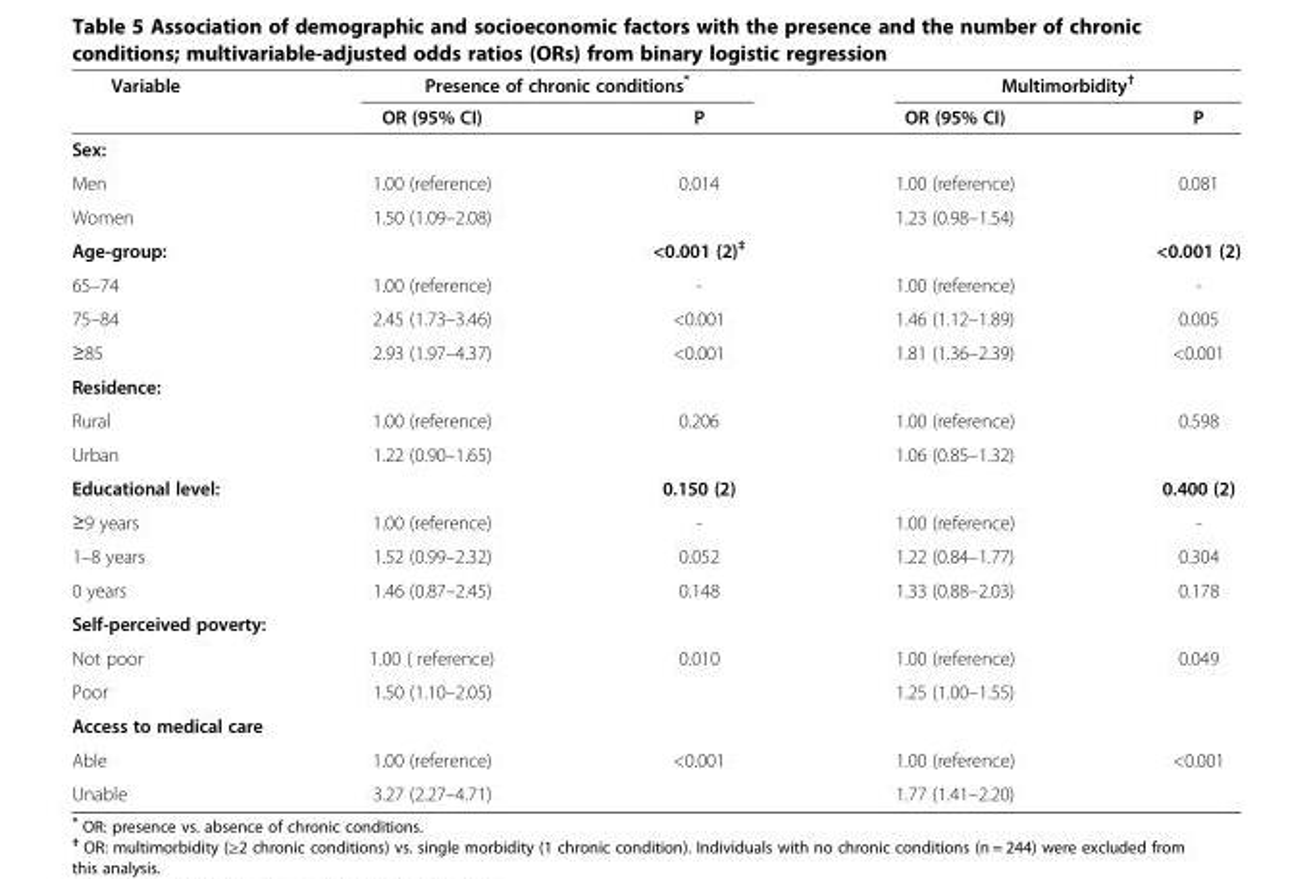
<table><thead><tr><td rowspan="2">Variable</td><td colspan="2">Presence of chronic conditions*</td><td colspan="2">Multimorbidity<sup>†</sup></td></tr><tr><td>OR (95% CI)</td><td>P</td><td>OR (95% CI)</td><td>P</td></tr></thead><tbody><tr><td colspan="5">Sex:</td></tr><tr><td>Men</td><td>1.00 (reference)</td><td>0.014</td><td>1.00 (reference)</td><td>0.081</td></tr><tr><td>Women</td><td>1.50 (1.09–2.08)</td><td></td><td>1.23 (0.98–1.54)</td><td></td></tr><tr><td>Age-group:</td><td></td><td>&lt;0.001 (2)<sup>‡</sup></td><td></td><td>&lt;0.001 (2)</td></tr><tr><td>65–74</td><td>1.00 (reference)</td><td>-</td><td>1.00 (reference)</td><td>-</td></tr><tr><td>75–84</td><td>2.45 (1.73–3.46)</td><td>&lt;0.001</td><td>1.46 (1.12–1.89)</td><td>0.005</td></tr><tr><td>≥85</td><td>2.93 (1.97–4.37)</td><td>&lt;0.001</td><td>1.81 (1.36–2.39)</td><td>&lt;0.001</td></tr><tr><td colspan="5">Residence:</td></tr><tr><td>Rural</td><td>1.00 (reference)</td><td>0.206</td><td>1.00 (reference)</td><td>0.598</td></tr><tr><td>Urban</td><td>1.22 (0.90–1.65)</td><td></td><td>1.06 (0.85–1.32)</td><td></td></tr><tr><td>Educational level:</td><td></td><td>0.150 (2)</td><td></td><td>0.400 (2)</td></tr><tr><td>≥9 years</td><td>1.00 (reference)</td><td>-</td><td>1.00 (reference)</td><td>-</td></tr><tr><td>1–8 years</td><td>1.52 (0.99–2.32)</td><td>0.052</td><td>1.22 (0.84–1.77)</td><td>0.304</td></tr><tr><td>0 years</td><td>1.46 (0.87–2.45)</td><td>0.148</td><td>1.33 (0.88–2.03)</td><td>0.178</td></tr><tr><td colspan="5">Self-perceived poverty:</td></tr><tr><td>Not poor</td><td>1.00 ( reference)</td><td>0.010</td><td>1.00 (reference)</td><td>0.049</td></tr><tr><td>Poor</td><td>1.50 (1.10–2.05)</td><td></td><td>1.25 (1.00–1.55)</td><td></td></tr><tr><td colspan="5">Access to medical care</td></tr><tr><td>Able</td><td>1.00 (reference)</td><td>&lt;0.001</td><td>1.00 (reference)</td><td>&lt;0.001</td></tr><tr><td>Unable</td><td>3.27 (2.27–4.71)</td><td></td><td>1.77 (1.41–2.20)</td><td></td></tr></tbody></table>